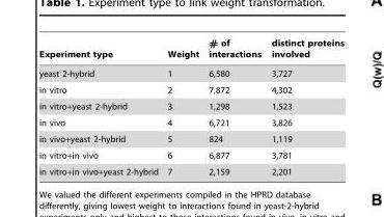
<table><thead><tr><td>Experiment type</td><td>Weight</td><td># of interactions</td><td>distinct proteins involved</td></tr></thead><tbody><tr><td>yeast 2-hybrid</td><td>1</td><td>6,580</td><td>3,727</td></tr><tr><td>in vitro</td><td>2</td><td>7,872</td><td>4,302</td></tr><tr><td>in vitro+yeast 2-hybrid</td><td>3</td><td>1,298</td><td>1,523</td></tr><tr><td>in vivo</td><td>4</td><td>6,721</td><td>3,826</td></tr><tr><td>in vivo+yeast 2-hybrid</td><td>5</td><td>824</td><td>1,119</td></tr><tr><td>in vitro+in vivo</td><td>6</td><td>6,877</td><td>3,781</td></tr><tr><td>in vitro+in vivo+yeast 2-hybrid</td><td>7</td><td>2,159</td><td>2,201</td></tr></tbody></table>